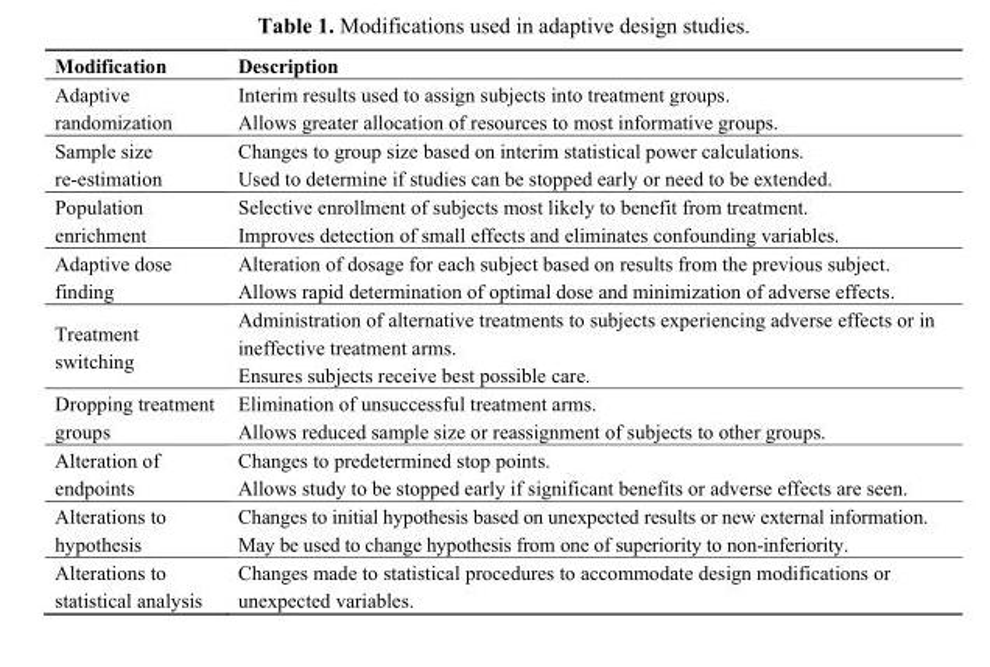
<table><thead><tr><td>Modification</td><td>Description</td></tr></thead><tbody><tr><td rowspan="2">Adaptive randomization</td><td>Interim results used to assign subjects into treatment groups.</td></tr><tr><td>Allows greater allocation of resources to most informative groups.</td></tr><tr><td rowspan="2">Sample size re-estimation</td><td>Changes to group size based on interim statistical power calculations.</td></tr><tr><td>Used to determine if studies can be stopped early or need to be extended.</td></tr><tr><td rowspan="2">Population enrichment</td><td>Selective enrollment of subjects most likely to benefit from treatment.</td></tr><tr><td>Improves detection of small effects and eliminates confounding variables.</td></tr><tr><td rowspan="2">Adaptive dose finding</td><td>Alteration of dosage for each subject based on results from the previous subject.</td></tr><tr><td>Allows rapid determination of optimal dose and minimization of adverse effects.</td></tr><tr><td rowspan="2">Treatment switching</td><td>Administration of alternative treatments to subjects experiencing adverse effects or in ineffective treatment arms.</td></tr><tr><td>Ensures subjects receive best possible care.</td></tr><tr><td rowspan="2">Dropping treatment groups</td><td>Elimination of unsuccessful treatment arms.</td></tr><tr><td>Allows reduced sample size or reassignment of subjects to other groups.</td></tr><tr><td rowspan="2">Alteration of endpoints</td><td>Changes to predetermined stop points.</td></tr><tr><td>Allows study to be stopped early if significant benefits or adverse effects are seen.</td></tr><tr><td rowspan="2">Alterations to hypothesis</td><td>Changes to initial hypothesis based on unexpected results or new external information.</td></tr><tr><td>May be used to change hypothesis from one of superiority to non-inferiority.</td></tr><tr><td>Alterations to statistical analysis</td><td>Changes made to statistical procedures to accommodate design modifications or unexpected variables.</td></tr></tbody></table>